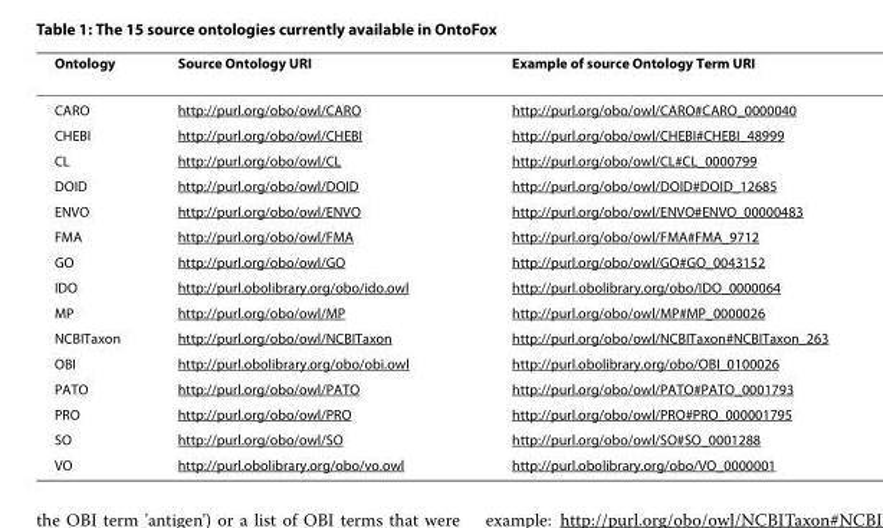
<table><thead><tr><td>Ontology</td><td>Source Ontology URI</td><td>Example of source Ontology Term URI</td></tr></thead><tbody><tr><td>CARO</td><td>http://purl.org/obo/owl/CARO</td><td>http://purl.org/obo/owl/CARO#CARO_0000040</td></tr><tr><td>CHEBI</td><td>http://purl.org/obo/owl/CHEBI</td><td>http://purl.org/obo/owl/CHEBI#CHEBI_48999</td></tr><tr><td>CL</td><td>http://purl.org/obo/owl/CL</td><td>http://purl.org/obo/owl/CL#CL_0000799</td></tr><tr><td>DOID</td><td>http://purl.org/obo/owl/DOID</td><td>http://purl.org/obo/owl/DOID#DOID_12685</td></tr><tr><td>ENVO</td><td>http://purl.org/obo/owl/ENVO</td><td>http://purl.org/obo/owl/ENVO#ENVO_00000483</td></tr><tr><td>FMA</td><td>http://purl.org/obo/owl/FMA</td><td>http://purl.org/obo/owl/FMA#FMA_9712</td></tr><tr><td>GO</td><td>http://purl.org/obo/owl/GO</td><td>http://purl.org/obo/owl/GO#GO_0043152</td></tr><tr><td>IDO</td><td>http://purl.obolibrary.org/obo/ido.owl</td><td>http://purl.obolibrary.org/obo/IDO_0000064</td></tr><tr><td>MP</td><td>http://purl.org/obo/owl/MP</td><td>http://purl.org/obo/owl/MP#MP_0000026</td></tr><tr><td>NCBITaxon</td><td>http://purl.org/obo/owl/NCBITaxon</td><td>http://purl.org/obo/owl/NCBITaxon#NCBITaxon_263</td></tr><tr><td>OBI</td><td>http://purl.obolibrary.org/obo/obi.owl</td><td>http://purl.obolibrary.org/obo/OBI_0100026</td></tr><tr><td>PATO</td><td>http://purl.org/obo/owl/PATO</td><td>http://purl.org/obo/owl/PATO#PATO_0001793</td></tr><tr><td>PRO</td><td>http://purl.org/obo/owl/PRO</td><td>http://purl.org/obo/owl/PRO#PRO_000001795</td></tr><tr><td>SO</td><td>http://purl.org/obo/owl/SO</td><td>http://purl.org/obo/owl/SO#SO_0001288</td></tr><tr><td>VO</td><td>http://purl.obolibrary.org/obo/vo.owl</td><td>http://purl.obolibrary.org/obo/VO_0000001</td></tr></tbody></table>